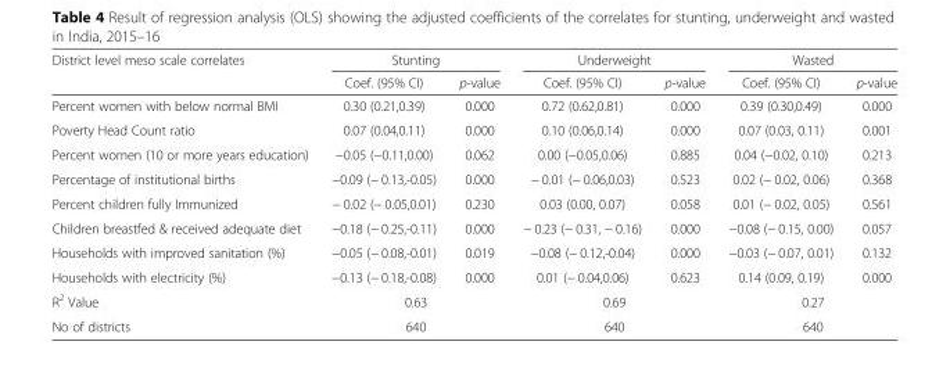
<table><thead><tr><td rowspan="2">District level meso scale correlates</td><td colspan="2">Stunting</td><td colspan="2">Underweight</td><td colspan="2">Wasted</td></tr><tr><td>Coef. (95% CI)</td><td>p-value</td><td>Coef. (95% CI)</td><td>p-value</td><td>Coef. (95% CI)</td><td>p-value</td></tr></thead><tbody><tr><td>Percent women with below normal BMI</td><td>0.30 (0.21,0.39)</td><td>0.000</td><td>0.72 (0.62,0.81)</td><td>0.000</td><td>0.39 (0.30,0.49)</td><td>0.000</td></tr><tr><td>Poverty Head Count ratio</td><td>0.07 (0.04,0.11)</td><td>0.000</td><td>0.10 (0.06,0.14)</td><td>0.000</td><td>0.07 (0.03, 0.11)</td><td>0.001</td></tr><tr><td>Percent women (10 or more years education)</td><td>−0.05 (−0.11,0.00)</td><td>0.062</td><td>0.00 (−0.05,0.06)</td><td>0.885</td><td>0.04 (−0.02, 0.10)</td><td>0.213</td></tr><tr><td>Percentage of institutional births</td><td>−0.09 (− 0.13,-0.05)</td><td>0.000</td><td>− 0.01 (− 0.06,0.03)</td><td>0.523</td><td>0.02 (− 0.02, 0.06)</td><td>0.368</td></tr><tr><td>Percent children fully Immunized</td><td>− 0.02 (− 0.05,0.01)</td><td>0.230</td><td>0.03 (0.00, 0.07)</td><td>0.058</td><td>0.01 (− 0.02, 0.05)</td><td>0.561</td></tr><tr><td>Children breastfed &amp; received adequate diet</td><td>−0.18 (− 0.25,-0.11)</td><td>0.000</td><td>− 0.23 (− 0.31, − 0.16)</td><td>0.000</td><td>−0.08 (− 0.15, 0.00)</td><td>0.057</td></tr><tr><td>Households with improved sanitation (%)</td><td>−0.05 (− 0.08,-0.01)</td><td>0.019</td><td>−0.08 (− 0.12,-0.04)</td><td>0.000</td><td>−0.03 (− 0.07, 0.01)</td><td>0.132</td></tr><tr><td>Households with electricity (%)</td><td>−0.13 (− 0.18,-0.08)</td><td>0.000</td><td>0.01 (− 0.04,0.06)</td><td>0.623</td><td>0.14 (0.09, 0.19)</td><td>0.000</td></tr><tr><td>R<sup>2</sup> Value</td><td colspan="2">0.63</td><td colspan="2">0.69</td><td colspan="2">0.27</td></tr><tr><td>No of districts</td><td colspan="2">640</td><td colspan="2">640</td><td colspan="2">640</td></tr></tbody></table>